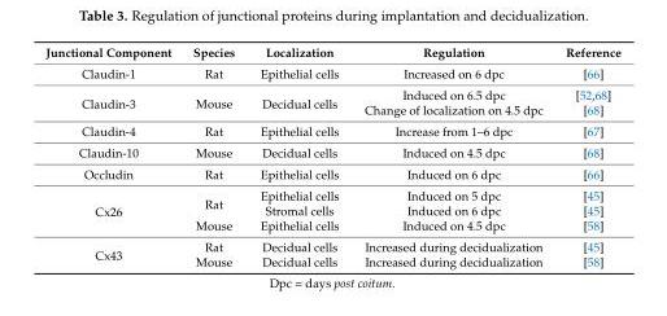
<table><thead><tr><td>Junctional Component</td><td>Species</td><td>Localization</td><td>Regulation</td><td>Reference</td></tr></thead><tbody><tr><td>Claudin-1</td><td>Rat</td><td>Epithelial cells</td><td>Increased on 6 dpc</td><td>[66]</td></tr><tr><td rowspan="2">Claudin-3</td><td rowspan="2">Mouse</td><td rowspan="2">Decidual cells</td><td>Induced on 6.5 dpc</td><td>[52,68]</td></tr><tr><td>Change of localization on 4.5 dpc</td><td>[68]</td></tr><tr><td>Claudin-4</td><td>Rat</td><td>Epithelial cells</td><td>Increase from 1–6 dpc</td><td>[67]</td></tr><tr><td>Claudin-10</td><td>Mouse</td><td>Decidual cells</td><td>Induced on 4.5 dpc</td><td>[68]</td></tr><tr><td>Occludin</td><td>Rat</td><td>Epithelial cells</td><td>Induced on 6 dpc</td><td>[66]</td></tr><tr><td rowspan="3">Cx26</td><td rowspan="2">Rat</td><td>Epithelial cells</td><td>Induced on 5 dpc</td><td>[45]</td></tr><tr><td>Stromal cells</td><td>Induced on 6 dpc</td><td>[45]</td></tr><tr><td>Mouse</td><td>Epithelial cells</td><td>Induced on 4.5 dpc</td><td>[58]</td></tr><tr><td rowspan="2">Cx43</td><td>Rat</td><td>Decidual cells</td><td>Increased during decidualization</td><td>[45]</td></tr><tr><td>Mouse</td><td>Decidual cells</td><td>Increased during decidualization</td><td>[58]</td></tr></tbody></table>